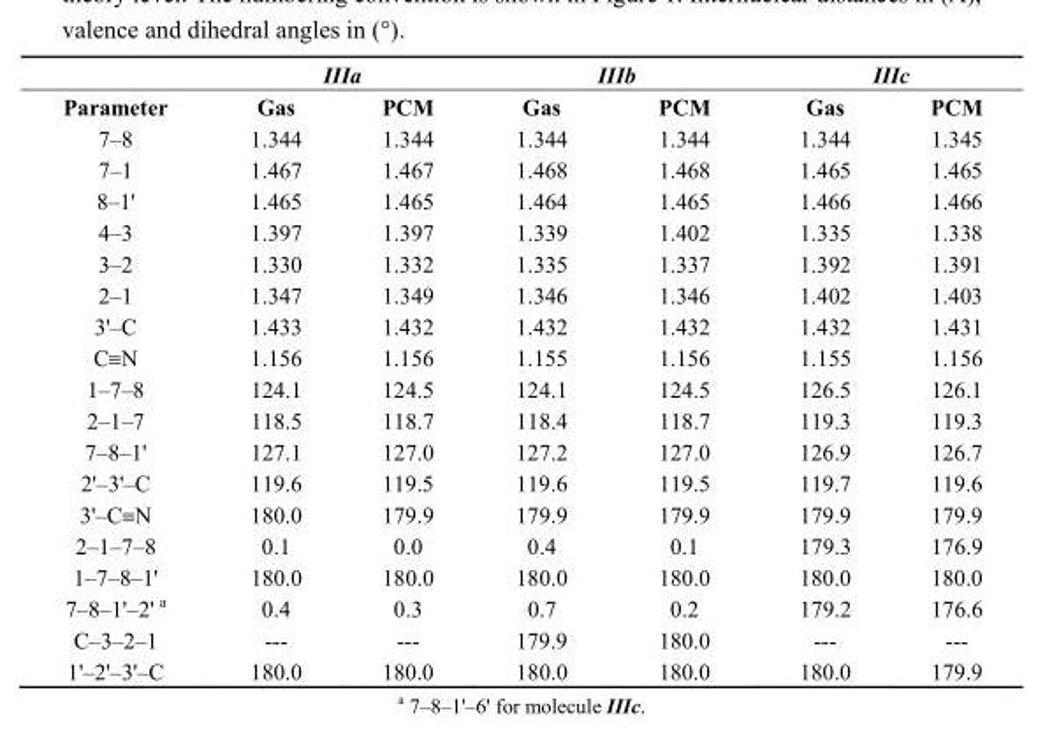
<table><thead><tr><td rowspan="2">Parameter</td><td colspan="2">IIIa</td><td colspan="2">IIIb</td><td colspan="2">IIIc</td></tr><tr><td>Gas</td><td>PCM</td><td>Gas</td><td>PCM</td><td>Gas</td><td>PCM</td></tr></thead><tbody><tr><td>7–8</td><td>1.344</td><td>1.344</td><td>1.344</td><td>1.344</td><td>1.344</td><td>1.345</td></tr><tr><td>7–1</td><td>1.467</td><td>1.467</td><td>1.468</td><td>1.468</td><td>1.465</td><td>1.465</td></tr><tr><td>8–1&#x27;</td><td>1.465</td><td>1.465</td><td>1.464</td><td>1.465</td><td>1.466</td><td>1.466</td></tr><tr><td>4–3</td><td>1.397</td><td>1.397</td><td>1.339</td><td>1.402</td><td>1.335</td><td>1.338</td></tr><tr><td>3–2</td><td>1.330</td><td>1.332</td><td>1.335</td><td>1.337</td><td>1.392</td><td>1.391</td></tr><tr><td>2–1</td><td>1.347</td><td>1.349</td><td>1.346</td><td>1.346</td><td>1.402</td><td>1.403</td></tr><tr><td>3&#x27;–C</td><td>1.433</td><td>1.432</td><td>1.432</td><td>1.432</td><td>1.432</td><td>1.431</td></tr><tr><td>C≡N</td><td>1.156</td><td>1.156</td><td>1.155</td><td>1.156</td><td>1.155</td><td>1.156</td></tr><tr><td>1–7–8</td><td>124.1</td><td>124.5</td><td>124.1</td><td>124.5</td><td>126.5</td><td>126.1</td></tr><tr><td>2–1–7</td><td>118.5</td><td>118.7</td><td>118.4</td><td>118.7</td><td>119.3</td><td>119.3</td></tr><tr><td>7–8–1&#x27;</td><td>127.1</td><td>127.0</td><td>127.2</td><td>127.0</td><td>126.9</td><td>126.7</td></tr><tr><td>2&#x27;–3&#x27;–C</td><td>119.6</td><td>119.5</td><td>119.6</td><td>119.5</td><td>119.7</td><td>119.6</td></tr><tr><td>3&#x27;–C≡N</td><td>180.0</td><td>179.9</td><td>179.9</td><td>179.9</td><td>179.9</td><td>179.9</td></tr><tr><td>2–1–7–8</td><td>0.1</td><td>0.0</td><td>0.4</td><td>0.1</td><td>179.3</td><td>176.9</td></tr><tr><td>1–7–8–1&#x27;</td><td>180.0</td><td>180.0</td><td>180.0</td><td>180.0</td><td>180.0</td><td>180.0</td></tr><tr><td>7–8–1&#x27;–2&#x27; a</td><td>0.4</td><td>0.3</td><td>0.7</td><td>0.2</td><td>179.2</td><td>176.6</td></tr><tr><td>C–3–2–1</td><td>---</td><td>---</td><td>179.9</td><td>180.0</td><td>---</td><td>---</td></tr><tr><td>1&#x27;–2&#x27;–3&#x27;–C</td><td>180.0</td><td>180.0</td><td>180.0</td><td>180.0</td><td>180.0</td><td>179.9</td></tr></tbody></table>